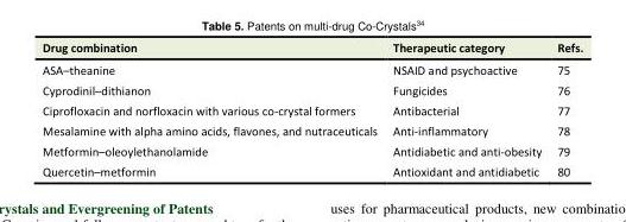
<table><tbody><tr><td>Drug combination</td><td>Therapeutic category</td><td>Refs.</td></tr><tr><td>ASA–theanine</td><td>NSAID and psychoactive</td><td>75</td></tr><tr><td>Cyprodinil–dithianon</td><td>Fungicides</td><td>76</td></tr><tr><td>Ciprofloxacin and norfloxacin with various co-crystal formers</td><td>Antibacterial</td><td>77</td></tr><tr><td>Mesalamine with alpha amino acids, flavones, and nutraceuticals</td><td>Anti-inflammatory</td><td>78</td></tr><tr><td>Metformin–oleoylethanolamide</td><td>Antidiabetic and anti-obesity</td><td>79</td></tr><tr><td>Quercetin–metformin</td><td>Antioxidant and antidiabetic</td><td>80</td></tr></tbody></table>